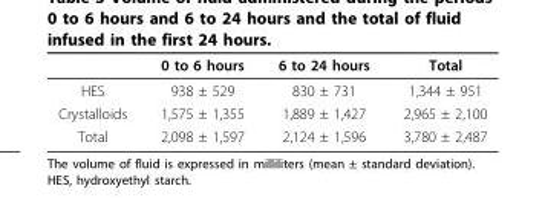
<table><thead><tr><td></td><td>0 to 6 hours</td><td>6 to 24 hours</td><td>Total</td></tr></thead><tbody><tr><td>HES</td><td>938 ± 529</td><td>830 ± 731</td><td>1,344 ± 951</td></tr><tr><td>Crystalloids</td><td>1,575 ± 1,355</td><td>1,889 ± 1,427</td><td>2,965 ± 2,100</td></tr><tr><td>Total</td><td>2,098 ± 1,597</td><td>2,124 ± 1,596</td><td>3,780 ± 2,487</td></tr></tbody></table>